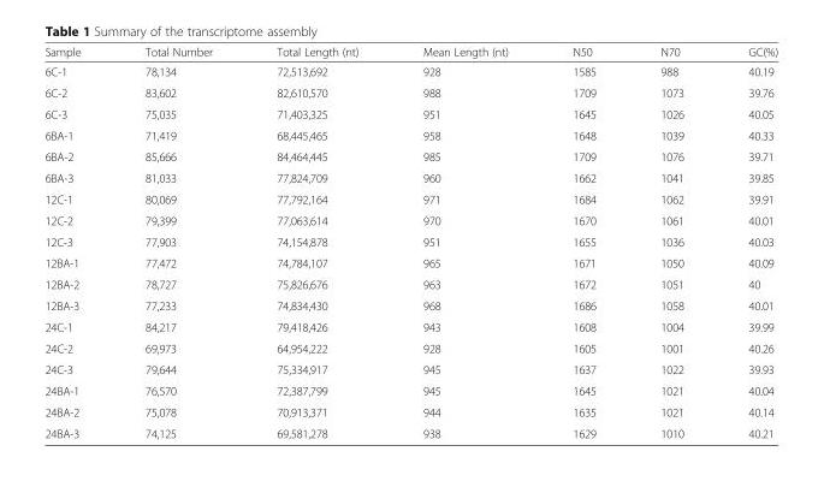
<table><thead><tr><td>Sample</td><td>Total Number</td><td>Total Length (nt)</td><td>Mean Length (nt)</td><td>N50</td><td>N70</td><td>GC(%)</td></tr></thead><tbody><tr><td>6C-1</td><td>78,134</td><td>72,513,692</td><td>928</td><td>1585</td><td>988</td><td>40.19</td></tr><tr><td>6C-2</td><td>83,602</td><td>82,610,570</td><td>988</td><td>1709</td><td>1073</td><td>39.76</td></tr><tr><td>6C-3</td><td>75,035</td><td>71,403,325</td><td>951</td><td>1645</td><td>1026</td><td>40.05</td></tr><tr><td>6BA-1</td><td>71,419</td><td>68,445,465</td><td>958</td><td>1648</td><td>1039</td><td>40.33</td></tr><tr><td>6BA-2</td><td>85,666</td><td>84,464,445</td><td>985</td><td>1709</td><td>1076</td><td>39.71</td></tr><tr><td>6BA-3</td><td>81,033</td><td>77,824,709</td><td>960</td><td>1662</td><td>1041</td><td>39.85</td></tr><tr><td>12C-1</td><td>80,069</td><td>77,792,164</td><td>971</td><td>1684</td><td>1062</td><td>39.91</td></tr><tr><td>12C-2</td><td>79,399</td><td>77,063,614</td><td>970</td><td>1670</td><td>1061</td><td>40.01</td></tr><tr><td>12C-3</td><td>77,903</td><td>74,154,878</td><td>951</td><td>1655</td><td>1036</td><td>40.03</td></tr><tr><td>12BA-1</td><td>77,472</td><td>74,784,107</td><td>965</td><td>1671</td><td>1050</td><td>40.09</td></tr><tr><td>12BA-2</td><td>78,727</td><td>75,826,676</td><td>963</td><td>1672</td><td>1051</td><td>40</td></tr><tr><td>12BA-3</td><td>77,233</td><td>74,834,430</td><td>968</td><td>1686</td><td>1058</td><td>40.01</td></tr><tr><td>24C-1</td><td>84,217</td><td>79,418,426</td><td>943</td><td>1608</td><td>1004</td><td>39.99</td></tr><tr><td>24C-2</td><td>69,973</td><td>64,954,222</td><td>928</td><td>1605</td><td>1001</td><td>40.26</td></tr><tr><td>24C-3</td><td>79,644</td><td>75,334,917</td><td>945</td><td>1637</td><td>1022</td><td>39.93</td></tr><tr><td>24BA-1</td><td>76,570</td><td>72,387,799</td><td>945</td><td>1645</td><td>1021</td><td>40.04</td></tr><tr><td>24BA-2</td><td>75,078</td><td>70,913,371</td><td>944</td><td>1635</td><td>1021</td><td>40.14</td></tr><tr><td>24BA-3</td><td>74,125</td><td>69,581,278</td><td>938</td><td>1629</td><td>1010</td><td>40.21</td></tr></tbody></table>